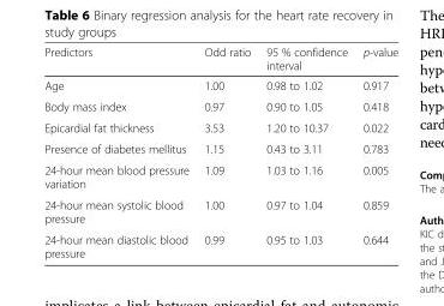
<table><thead><tr><td>Predictors</td><td>Odd ratio</td><td>95 % confidence interval</td><td>p-value</td></tr></thead><tbody><tr><td>Age</td><td>1.00</td><td>0.98 to 1.02</td><td>0.917</td></tr><tr><td>Body mass index</td><td>0.97</td><td>0.90 to 1.05</td><td>0.418</td></tr><tr><td>Epicardial fat thickness</td><td>3.53</td><td>1.20 to 10.37</td><td>0.022</td></tr><tr><td>Presence of diabetes mellitus</td><td>1.15</td><td>0.43 to 3.11</td><td>0.783</td></tr><tr><td>24-hour mean blood pressure variation</td><td>1.09</td><td>1.03 to 1.16</td><td>0.005</td></tr><tr><td>24-hour mean systolic blood pressure</td><td>1.00</td><td>0.97 to 1.04</td><td>0.859</td></tr><tr><td>24-hour mean diastolic blood pressure</td><td>0.99</td><td>0.95 to 1.03</td><td>0.644</td></tr></tbody></table>